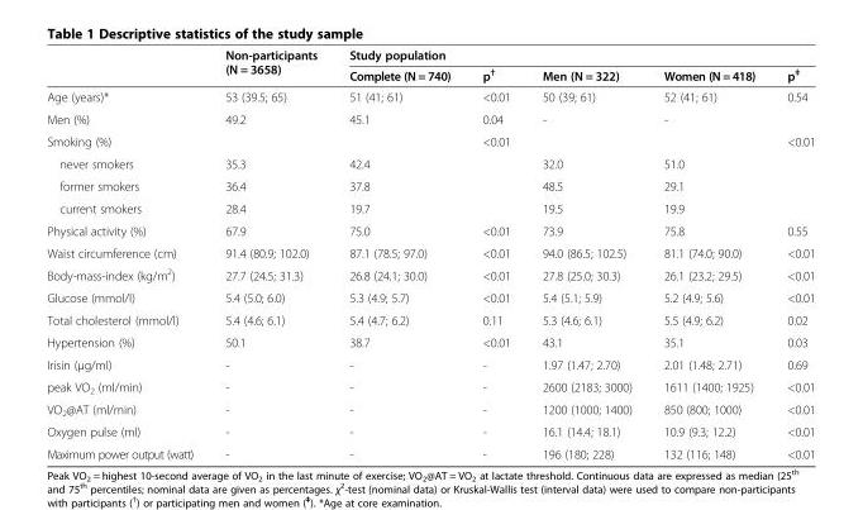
<table><thead><tr><td rowspan="2"></td><td rowspan="2">Non-participants (N = 3658)</td><td colspan="5">Study population</td></tr><tr><td>Complete (N = 740)</td><td>p<sup>†</sup></td><td>Men (N = 322)</td><td>Women (N = 418)</td><td>p<sup>‡</sup></td></tr></thead><tbody><tr><td>Age (years)*</td><td>53 (39.5; 65)</td><td>51 (41; 61)</td><td>&lt;0.01</td><td>50 (39; 61)</td><td>52 (41; 61)</td><td>0.54</td></tr><tr><td>Men (%)</td><td>49.2</td><td>45.1</td><td>0.04</td><td>-</td><td>-</td><td></td></tr><tr><td>Smoking (%)</td><td></td><td></td><td>&lt;0.01</td><td></td><td></td><td>&lt;0.01</td></tr><tr><td>never smokers</td><td>35.3</td><td>42.4</td><td></td><td>32.0</td><td>51.0</td><td></td></tr><tr><td>former smokers</td><td>36.4</td><td>37.8</td><td></td><td>48.5</td><td>29.1</td><td></td></tr><tr><td>current smokers</td><td>28.4</td><td>19.7</td><td></td><td>19.5</td><td>19.9</td><td></td></tr><tr><td>Physical activity (%)</td><td>67.9</td><td>75.0</td><td>&lt;0.01</td><td>73.9</td><td>75.8</td><td>0.55</td></tr><tr><td>Waist circumference (cm)</td><td>91.4 (80.9; 102.0)</td><td>87.1 (78.5; 97.0)</td><td>&lt;0.01</td><td>94.0 (86.5; 102.5)</td><td>81.1 (74.0; 90.0)</td><td>&lt;0.01</td></tr><tr><td>Body-mass-index (kg/m<sup>2</sup>)</td><td>27.7 (24.5; 31.3)</td><td>26.8 (24.1; 30.0)</td><td>&lt;0.01</td><td>27.8 (25.0; 30.3)</td><td>26.1 (23.2; 29.5)</td><td>&lt;0.01</td></tr><tr><td>Glucose (mmol/l)</td><td>5.4 (5.0; 6.0)</td><td>5.3 (4.9; 5.7)</td><td>&lt;0.01</td><td>5.4 (5.1; 5.9)</td><td>5.2 (4.9; 5.6)</td><td>&lt;0.01</td></tr><tr><td>Total cholesterol (mmol/l)</td><td>5.4 (4.6; 6.1)</td><td>5.4 (4.7; 6.2)</td><td>0.11</td><td>5.3 (4.6; 6.1)</td><td>5.5 (4.9; 6.2)</td><td>0.02</td></tr><tr><td>Hypertension (%)</td><td>50.1</td><td>38.7</td><td>&lt;0.01</td><td>43.1</td><td>35.1</td><td>0.03</td></tr><tr><td>Irisin (μg/ml)</td><td>-</td><td>-</td><td>-</td><td>1.97 (1.47; 2.70)</td><td>2.01 (1.48; 2.71)</td><td>0.69</td></tr><tr><td>peak VO<sub>2</sub> (ml/min)</td><td>-</td><td>-</td><td>-</td><td>2600 (2183; 3000)</td><td>1611 (1400; 1925)</td><td>&lt;0.01</td></tr><tr><td>VO<sub>2</sub>@AT (ml/min)</td><td>-</td><td>-</td><td>-</td><td>1200 (1000; 1400)</td><td>850 (800; 1000)</td><td>&lt;0.01</td></tr><tr><td>Oxygen pulse (ml)</td><td>-</td><td>-</td><td>-</td><td>16.1 (14.4; 18.1)</td><td>10.9 (9.3; 12.2)</td><td>&lt;0.01</td></tr><tr><td>Maximum power output (watt)</td><td>-</td><td>-</td><td>-</td><td>196 (180; 228)</td><td>132 (116; 148)</td><td>&lt;0.01</td></tr></tbody></table>